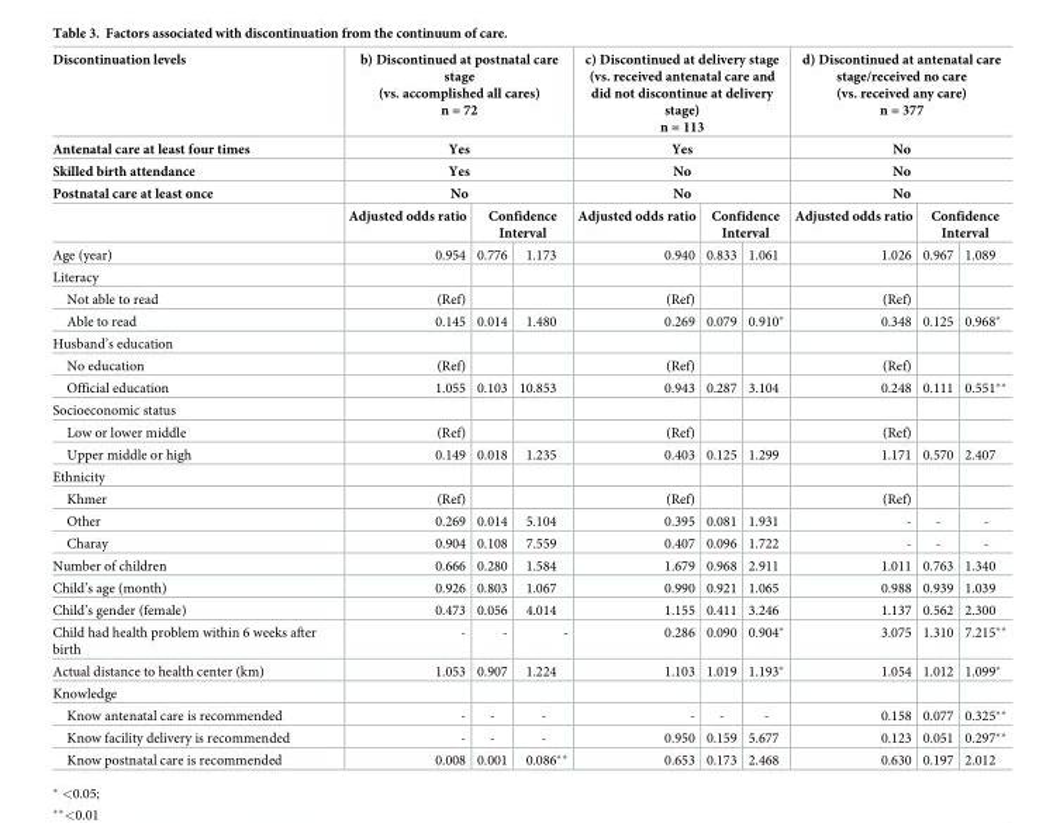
<table><thead><tr><td rowspan="6">Discontinuation levels Antenatal care at least four times Skilled birth attendance Postnatal care at least once Age (year)</td><td rowspan="4" colspan="3">b) Discontinued at postnatal care stage (vs. accomplished all cares) n = 72 Yes Yes No</td><td rowspan="4" colspan="3">c) Discontinued at delivery stage (vs. received antenatal care and did not discontinue at delivery stage) n = 113 Yes No No</td><td rowspan="4" colspan="3">d) Discontinued at antenatal care stage/received no care (vs. received any care) n = 377 No No No</td></tr><tr></tr><tr></tr><tr></tr><tr><td rowspan="2">Adjusted odds ratio 0.954</td><td colspan="2">Confidence Interval</td><td rowspan="2">Adjusted odds ratio 0.940</td><td colspan="2">Confidence Interval</td><td rowspan="2">Adjusted odds ratio 1.026</td><td colspan="2">Confidence Interval</td></tr><tr><td>0.776</td><td>1.173</td><td>0.833</td><td>1.061</td><td>0.967</td><td>1.089</td></tr></thead><tbody><tr><td colspan="10">Literacy</td></tr><tr><td>Not able to read</td><td>(Ref)</td><td></td><td></td><td>(Ref)</td><td></td><td></td><td>(Ref)</td><td></td><td></td></tr><tr><td>Able to read</td><td>0.145</td><td>0.014</td><td>1.480</td><td>0.269</td><td>0.079</td><td>0.910*</td><td>0.348</td><td>0.125</td><td>0.968*</td></tr><tr><td colspan="10">Husband’s education</td></tr><tr><td>No education</td><td>(Ref)</td><td></td><td></td><td>(Ref)</td><td></td><td></td><td>(Ref)</td><td></td><td></td></tr><tr><td>Official education</td><td>1.055</td><td>0.103</td><td>10.853</td><td>0.943</td><td>0.287</td><td>3.104</td><td>0.248</td><td>0.111</td><td>0.551**</td></tr><tr><td colspan="10">Socioeconomic status</td></tr><tr><td>Low or lower middle</td><td>(Ref)</td><td></td><td></td><td>(Ref)</td><td></td><td></td><td>(Ref)</td><td></td><td></td></tr><tr><td>Upper middle or high</td><td>0.149</td><td>0.018</td><td>1.235</td><td>0.403</td><td>0.125</td><td>1.299</td><td>1.171</td><td>0.570</td><td>2.407</td></tr><tr><td colspan="10">Ethnicity</td></tr><tr><td>Khmer</td><td>(Ref)</td><td></td><td></td><td>(Ref)</td><td></td><td></td><td>(Ref)</td><td></td><td></td></tr><tr><td>Other</td><td>0.269</td><td>0.014</td><td>5.104</td><td>0.395</td><td>0.081</td><td>1.931</td><td>-</td><td>-</td><td>-</td></tr><tr><td>Charay</td><td>0.904</td><td>0.108</td><td>7.559</td><td>0.407</td><td>0.096</td><td>1.722</td><td>-</td><td>-</td><td>-</td></tr><tr><td>Number of children</td><td>0.666</td><td>0.280</td><td>1.584</td><td>1.679</td><td>0.968</td><td>2.911</td><td>1.011</td><td>0.763</td><td>1.340</td></tr><tr><td>Child’s age (month)</td><td>0.926</td><td>0.803</td><td>1.067</td><td>0.990</td><td>0.921</td><td>1.065</td><td>0.988</td><td>0.939</td><td>1.039</td></tr><tr><td>Child’s gender (female)</td><td>0.473</td><td>0.056</td><td>4.014</td><td>1.155</td><td>0.411</td><td>3.246</td><td>1.137</td><td>0.562</td><td>2.300</td></tr><tr><td>Child had health problem within 6 weeks after birth</td><td>-</td><td>-</td><td>-</td><td>0.286</td><td>0.090</td><td>0.904*</td><td>3.075</td><td>1.310</td><td>7.215**</td></tr><tr><td>Actual distance to health center (km)</td><td>1.053</td><td>0.907</td><td>1.224</td><td>1.103</td><td>1.019</td><td>1.193*</td><td>1.054</td><td>1.012</td><td>1.099*</td></tr><tr><td colspan="10">Knowledge</td></tr><tr><td>Know antenatal care is recommended</td><td>-</td><td>-</td><td>-</td><td>-</td><td>-</td><td>-</td><td>0.158</td><td>0.077</td><td>0.325**</td></tr><tr><td>Know facility delivery is recommended</td><td>-</td><td>-</td><td>-</td><td>0.950</td><td>0.159</td><td>5.677</td><td>0.123</td><td>0.051</td><td>0.297**</td></tr><tr><td>Know postnatal care is recommended</td><td>0.008</td><td>0.001</td><td>0.086**</td><td>0.653</td><td>0.173</td><td>2.468</td><td>0.630</td><td>0.197</td><td>2.012</td></tr></tbody></table>